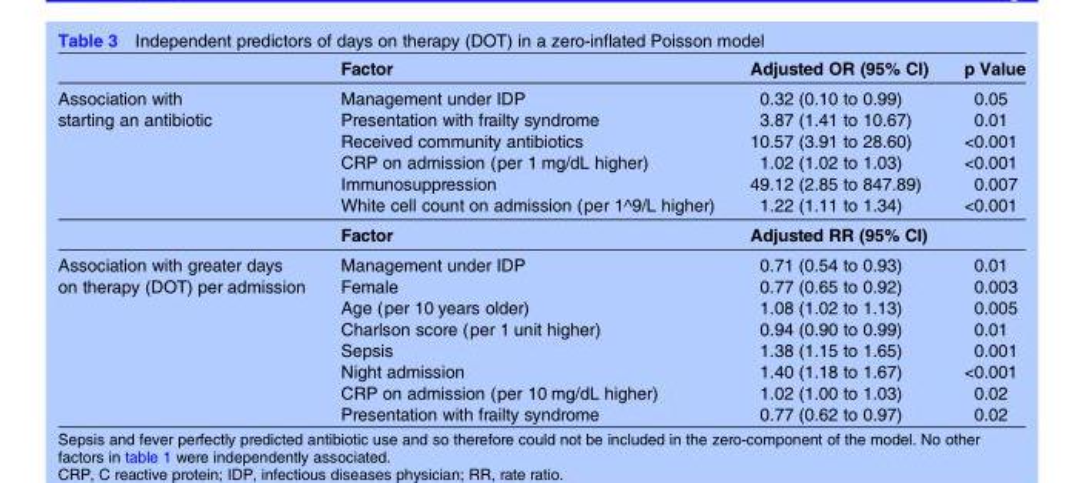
<table><thead><tr><td></td><td>Factor</td><td>Adjusted OR (95% CI)</td><td>p Value</td></tr></thead><tbody><tr><td rowspan="7">Association with starting an antibiotic</td><td>Management under IDP</td><td>0.32 (0.10 to 0.99)</td><td>0.05</td></tr><tr><td>Presentation with frailty syndrome</td><td>3.87 (1.41 to 10.67)</td><td>0.01</td></tr><tr><td>Received community antibiotics</td><td>10.57 (3.91 to 28.60)</td><td>&lt;0.001</td></tr><tr><td>CRP on admission (per 1 mg/dL higher)</td><td>1.02 (1.02 to 1.03)</td><td>&lt;0.001</td></tr><tr><td>Immunosuppression</td><td>49.12 (2.85 to 847.89)</td><td>0.007</td></tr><tr><td>White cell count on admission (per 1^9/L higher)</td><td>1.22 (1.11 to 1.34)</td><td>&lt;0.001</td></tr><tr><td>Factor</td><td>Adjusted RR (95% CI)</td><td></td></tr><tr><td rowspan="8">Association with greater days on therapy (DOT) per admission</td><td>Management under IDP</td><td>0.71 (0.54 to 0.93)</td><td>0.01</td></tr><tr><td>Female</td><td>0.77 (0.65 to 0.92)</td><td>0.003</td></tr><tr><td>Age (per 10 years older)</td><td>1.08 (1.02 to 1.13)</td><td>0.005</td></tr><tr><td>Charlson score (per 1 unit higher)</td><td>0.94 (0.90 to 0.99)</td><td>0.01</td></tr><tr><td>Sepsis</td><td>1.38 (1.15 to 1.65)</td><td>0.001</td></tr><tr><td>Night admission</td><td>1.40 (1.18 to 1.67)</td><td>&lt;0.001</td></tr><tr><td>CRP on admission (per 10 mg/dL higher)</td><td>1.02 (1.00 to 1.03)</td><td>0.02</td></tr><tr><td>Presentation with frailty syndrome</td><td>0.77 (0.62 to 0.97)</td><td>0.02</td></tr></tbody></table>